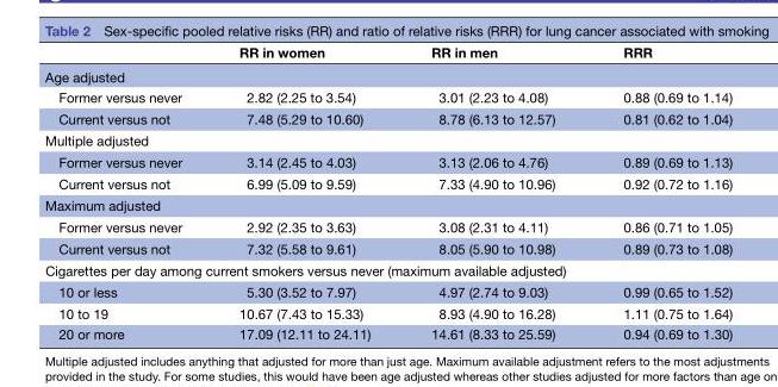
<table><thead><tr><td></td><td>RR in women</td><td>RR in men</td><td>RRR</td></tr></thead><tbody><tr><td colspan="4">Age adjusted</td></tr><tr><td>Former versus never</td><td>2.82 (2.25 to 3.54)</td><td>3.01 (2.23 to 4.08)</td><td>0.88 (0.69 to 1.14)</td></tr><tr><td>Current versus not</td><td>7.48 (5.29 to 10.60)</td><td>8.78 (6.13 to 12.57)</td><td>0.81 (0.62 to 1.04)</td></tr><tr><td colspan="4">Multiple adjusted</td></tr><tr><td>Former versus never</td><td>3.14 (2.45 to 4.03)</td><td>3.13 (2.06 to 4.76)</td><td>0.89 (0.69 to 1.13)</td></tr><tr><td>Current versus not</td><td>6.99 (5.09 to 9.59)</td><td>7.33 (4.90 to 10.96)</td><td>0.92 (0.72 to 1.16)</td></tr><tr><td colspan="4">Maximum adjusted</td></tr><tr><td>Former versus never</td><td>2.92 (2.35 to 3.63)</td><td>3.08 (2.31 to 4.11)</td><td>0.86 (0.71 to 1.05)</td></tr><tr><td>Current versus not</td><td>7.32 (5.58 to 9.61)</td><td>8.05 (5.90 to 10.98)</td><td>0.89 (0.73 to 1.08)</td></tr><tr><td colspan="4">Cigarettes per day among current smokers versus never (maximum available adjusted)</td></tr><tr><td>10 or less</td><td>5.30 (3.52 to 7.97)</td><td>4.97 (2.74 to 9.03)</td><td>0.99 (0.65 to 1.52)</td></tr><tr><td>10 to 19</td><td>10.67 (7.43 to 15.33)</td><td>8.93 (4.90 to 16.28)</td><td>1.11 (0.75 to 1.64)</td></tr><tr><td>20 or more</td><td>17.09 (12.11 to 24.11)</td><td>14.61 (8.33 to 25.59)</td><td>0.94 (0.69 to 1.30)</td></tr></tbody></table>